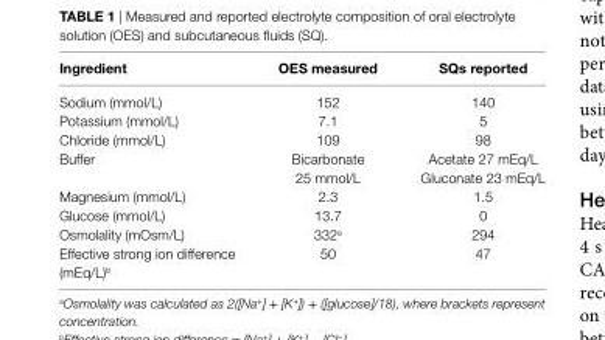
<table><thead><tr><td>ingredient</td><td>Oes measured</td><td>sQs reported</td></tr></thead><tbody><tr><td>Sodium (mmol/L)</td><td>152</td><td>140</td></tr><tr><td>Potassium (mmol/L)</td><td>7.1</td><td>5</td></tr><tr><td>Chloride (mmol/L)</td><td>109</td><td>98</td></tr><tr><td rowspan="2">Buffer</td><td rowspan="2">Bicarbonate 25 mmol/L</td><td>Acetate 27 mEq/L</td></tr><tr><td>Gluconate 23 mEq/L</td></tr><tr><td>Magnesium (mmol/L)</td><td>2.3</td><td>1.5</td></tr><tr><td>Glucose (mmol/L)</td><td>13.7</td><td>0</td></tr><tr><td>Osmolality (mOsm/L)</td><td>332<sup>a</sup></td><td>294</td></tr><tr><td>Effective strong ion difference (mEq/L)<sup>b</sup></td><td>50</td><td>47</td></tr></tbody></table>